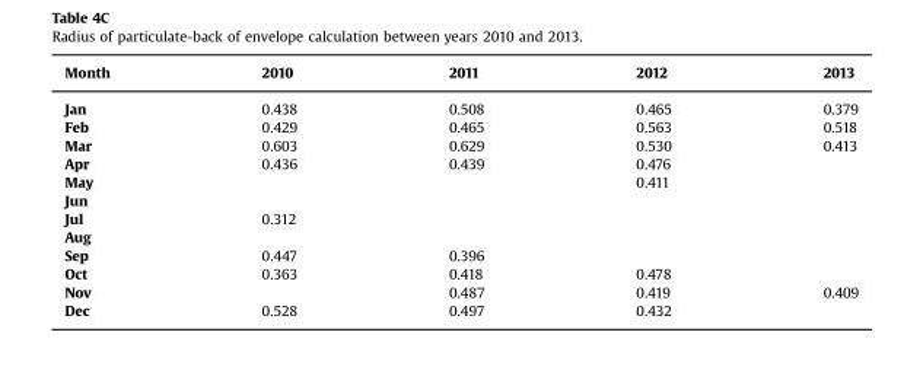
<table><thead><tr><td>Month</td><td>2010</td><td>2011</td><td>2012</td><td>2013</td></tr></thead><tbody><tr><td>Jan</td><td>0.438</td><td>0.508</td><td>0.465</td><td>0.379</td></tr><tr><td>Feb</td><td>0.429</td><td>0.465</td><td>0.563</td><td>0.518</td></tr><tr><td>Mar</td><td>0.603</td><td>0.629</td><td>0.530</td><td>0.413</td></tr><tr><td>Apr</td><td>0.436</td><td>0.439</td><td>0.476</td><td></td></tr><tr><td>May</td><td></td><td></td><td>0.411</td><td></td></tr><tr><td colspan="5">Jun</td></tr><tr><td>Jul</td><td>0.312</td><td></td><td></td><td></td></tr><tr><td colspan="5">Aug</td></tr><tr><td>Sep</td><td>0.447</td><td>0.396</td><td></td><td></td></tr><tr><td>Oct</td><td>0.363</td><td>0.418</td><td>0.478</td><td></td></tr><tr><td>Nov</td><td></td><td>0.487</td><td>0.419</td><td>0.409</td></tr><tr><td>Dec</td><td>0.528</td><td>0.497</td><td>0.432</td><td></td></tr></tbody></table>